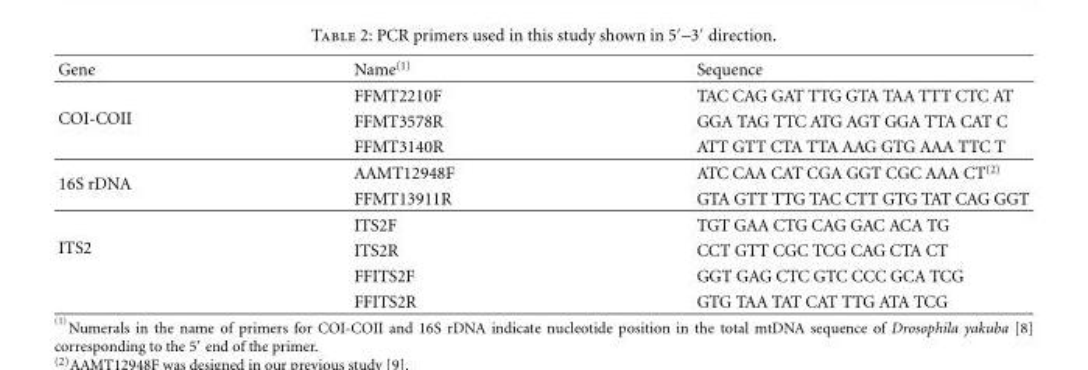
<table><thead><tr><td>Gene</td><td>Name<sup>(1)</sup></td><td>Sequence</td></tr></thead><tbody><tr><td rowspan="3">COI-COII</td><td>FFMT2210F</td><td>TAC CAG GAT TTG GTA TAA TTT CTC AT</td></tr><tr><td>FFMT3578R</td><td>GGA TAG TTC ATG AGT GGA TTA CAT C</td></tr><tr><td>FFMT3140R</td><td>ATT GTT CTA TTA AAG GTG AAA TTC T</td></tr><tr><td rowspan="2">16S rDNA</td><td>AAMT12948F</td><td>ATC CAA CAT CGA GGT CGC AAA CT<sup>(2)</sup></td></tr><tr><td>FFMT13911R</td><td>GTA GTT TTG TAC CTT GTG TAT CAG GGT</td></tr><tr><td rowspan="4">ITS2</td><td>ITS2F</td><td>TGT GAA CTG CAG GAC ACA TG</td></tr><tr><td>ITS2R</td><td>CCT GTT CGC TCG CAG CTA CT</td></tr><tr><td>FFITS2F</td><td>GGT GAG CTC GTC CCC GCA TCG</td></tr><tr><td>FFITS2R</td><td>GTG TAA TAT CAT TTG ATA TCG</td></tr></tbody></table>